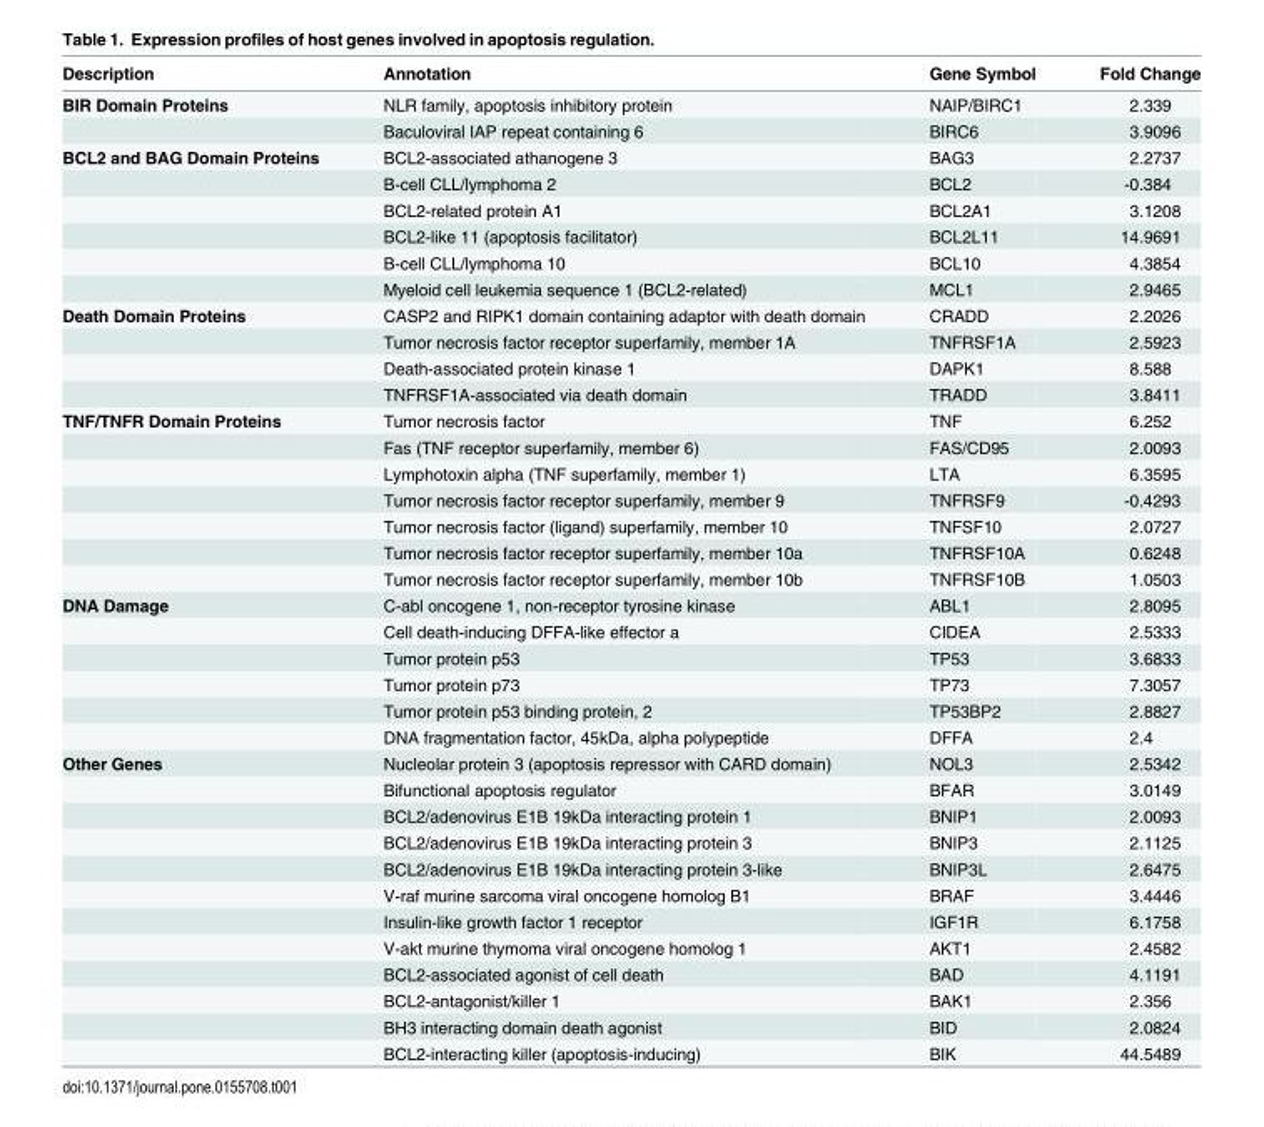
<table><thead><tr><td>Description</td><td>Annotation</td><td>Gene Symbol</td><td>Fold Change</td></tr></thead><tbody><tr><td rowspan="2">BIR Domain Proteins</td><td>NLR family, apoptosis inhibitory protein</td><td>NAIP/BIRC1</td><td>2.339</td></tr><tr><td>Baculoviral IAP repeat containing 6</td><td>BIRC6</td><td>3.9096</td></tr><tr><td rowspan="6">BCL2 and BAG Domain Proteins</td><td>BCL2-associated athanogene 3</td><td>BAG3</td><td>2.2737</td></tr><tr><td>B-cell CLL/lymphoma 2</td><td>BCL2</td><td>-0.384</td></tr><tr><td>BCL2-related protein A1</td><td>BCL2A1</td><td>3.1208</td></tr><tr><td>BCL2-like 11 (apoptosis facilitator)</td><td>BCL2L11</td><td>14.9691</td></tr><tr><td>B-cell CLL/lymphoma 10</td><td>BCL10</td><td>4.3854</td></tr><tr><td>Myeloid cell leukemia sequence 1 (BCL2-related)</td><td>MCL1</td><td>2.9465</td></tr><tr><td rowspan="4">Death Domain Proteins</td><td>CASP2 and RIPK1 domain containing adaptor with death domain</td><td>CRADD</td><td>2.2026</td></tr><tr><td>Tumor necrosis factor receptor superfamily, member 1A</td><td>TNFRSF1A</td><td>2.5923</td></tr><tr><td>Death-associated protein kinase 1</td><td>DAPK1</td><td>8.588</td></tr><tr><td>TNFRSF1A-associated via death domain</td><td>TRADD</td><td>3.8411</td></tr><tr><td rowspan="7">TNF/TNFR Domain Proteins</td><td>Tumor necrosis factor</td><td>TNF</td><td>6.252</td></tr><tr><td>Fas (TNF receptor superfamily, member 6)</td><td>FAS/CD95</td><td>2.0093</td></tr><tr><td>Lymphotoxin alpha (TNF superfamily, member 1)</td><td>LTA</td><td>6.3595</td></tr><tr><td>Tumor necrosis factor receptor superfamily, member 9</td><td>TNFRSF9</td><td>-0.4293</td></tr><tr><td>Tumor necrosis factor (ligand) superfamily, member 10</td><td>TNFSF10</td><td>2.0727</td></tr><tr><td>Tumor necrosis factor receptor superfamily, member 10a</td><td>TNFRSF10A</td><td>0.6248</td></tr><tr><td>Tumor necrosis factor receptor superfamily, member 10b</td><td>TNFRSF10B</td><td>1.0503</td></tr><tr><td rowspan="6">DNA Damage</td><td>C-abl oncogene 1, non-receptor tyrosine kinase</td><td>ABL1</td><td>2.8095</td></tr><tr><td>Cell death-inducing DFFA-like effector a</td><td>CIDEA</td><td>2.5333</td></tr><tr><td>Tumor protein p53</td><td>TP53</td><td>3.6833</td></tr><tr><td>Tumor protein p73</td><td>TP73</td><td>7.3057</td></tr><tr><td>Tumor protein p53 binding protein, 2</td><td>TP53BP2</td><td>2.8827</td></tr><tr><td>DNA fragmentation factor, 45kDa, alpha polypeptide</td><td>DFFA</td><td>2.4</td></tr><tr><td rowspan="12">Other Genes</td><td>Nucleolar protein 3 (apoptosis repressor with CARD domain)</td><td>NOL3</td><td>2.5342</td></tr><tr><td>Bifunctional apoptosis regulator</td><td>BFAR</td><td>3.0149</td></tr><tr><td>BCL2/adenovirus E1B 19kDa interacting protein 1</td><td>BNIP1</td><td>2.0093</td></tr><tr><td>BCL2/adenovirus E1B 19kDa interacting protein 3</td><td>BNIP3</td><td>2.1125</td></tr><tr><td>BCL2/adenovirus E1B 19kDa interacting protein 3-like</td><td>BNIP3L</td><td>2.6475</td></tr><tr><td>V-raf murine sarcoma viral oncogene homolog B1</td><td>BRAF</td><td>3.4446</td></tr><tr><td>Insulin-like growth factor 1 receptor</td><td>IGF1R</td><td>6.1758</td></tr><tr><td>V-akt murine thymoma viral oncogene homolog 1</td><td>AKT1</td><td>2.4582</td></tr><tr><td>BCL2-associated agonist of cell death</td><td>BAD</td><td>4.1191</td></tr><tr><td>BCL2-antagonist/killer 1</td><td>BAK1</td><td>2.356</td></tr><tr><td>BH3 interacting domain death agonist</td><td>BID</td><td>2.0824</td></tr><tr><td>BCL2-interacting killer (apoptosis-inducing)</td><td>BIK</td><td>44.5489</td></tr></tbody></table>